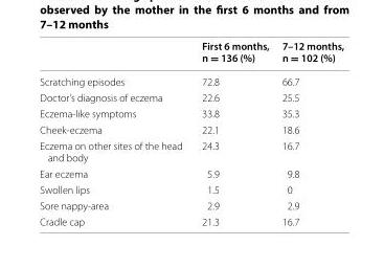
<table><thead><tr><td></td><td>First 6 months, n = 136 (%)</td><td>7–12 months, n = 102 (%)</td></tr></thead><tbody><tr><td>Scratching episodes</td><td>72.8</td><td>66.7</td></tr><tr><td>Doctor’s diagnosis of eczema</td><td>22.6</td><td>25.5</td></tr><tr><td>Eczema‑like symptoms</td><td>33.8</td><td>35.3</td></tr><tr><td>Cheek‑eczema</td><td>22.1</td><td>18.6</td></tr><tr><td>Eczema on other sites of the head and body</td><td>24.3</td><td>16.7</td></tr><tr><td>Ear eczema</td><td>5.9</td><td>9.8</td></tr><tr><td>Swollen lips</td><td>1.5</td><td>0</td></tr><tr><td>Sore nappy‑area</td><td>2.9</td><td>2.9</td></tr><tr><td>Cradle cap</td><td>21.3</td><td>16.7</td></tr></tbody></table>